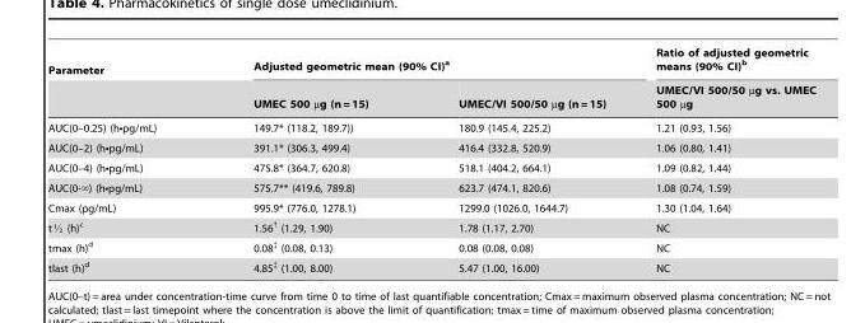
<table><thead><tr><td rowspan="2">Parameter</td><td colspan="2">Adjusted geometric mean (90% CI)<sup>a</sup></td><td rowspan="2">Ratio of adjusted geometric means (90% CI)<sup>b</sup> UMEC/VI 500/50 µg vs. UMEC 500 µg</td></tr><tr><td>UMEC 500 µg (n = 15)</td><td>UMEC/VI 500/50 µg (n = 15)</td></tr></thead><tbody><tr><td>AUC(0–0.25) (h•pg/mL)</td><td>149.7* (118.2, 189.7))</td><td>180.9 (145.4, 225.2)</td><td>1.21 (0.93, 1.56)</td></tr><tr><td>AUC(0–2) (h•pg/mL)</td><td>391.1* (306.3, 499.4)</td><td>416.4 (332.8, 520.9)</td><td>1.06 (0.80, 1.41)</td></tr><tr><td>AUC(0–4) (h•pg/mL)</td><td>475.8* (364.7, 620.8)</td><td>518.1 (404.2, 664.1)</td><td>1.09 (0.82, 1.44)</td></tr><tr><td>AUC(0-‘) (hNpg/mL)</td><td>575.7** (419.6, 789.8)</td><td>623.7 (474.1, 820.6)</td><td>1.08 (0.74, 1.59)</td></tr><tr><td>Cmax (pg/mL)</td><td>995.9* (776.0, 1278.1)</td><td>1299.0 (1026.0, 1644.7)</td><td>1.30 (1.04, 1.64)</td></tr><tr><td>tK (h)c</td><td>1.56† (1.29, 1.90)</td><td>1.78 (1.17, 2.70)</td><td>NC</td></tr><tr><td>tmax (h)<sup>d</sup></td><td>0.08‡ (0.08, 0.13)</td><td>0.08 (0.08, 0.08)</td><td>NC</td></tr><tr><td>tlast (h)<sup>d</sup></td><td>4.85‡ (1.00, 8.00)</td><td>5.47 (1.00, 16.00)</td><td>NC</td></tr></tbody></table>